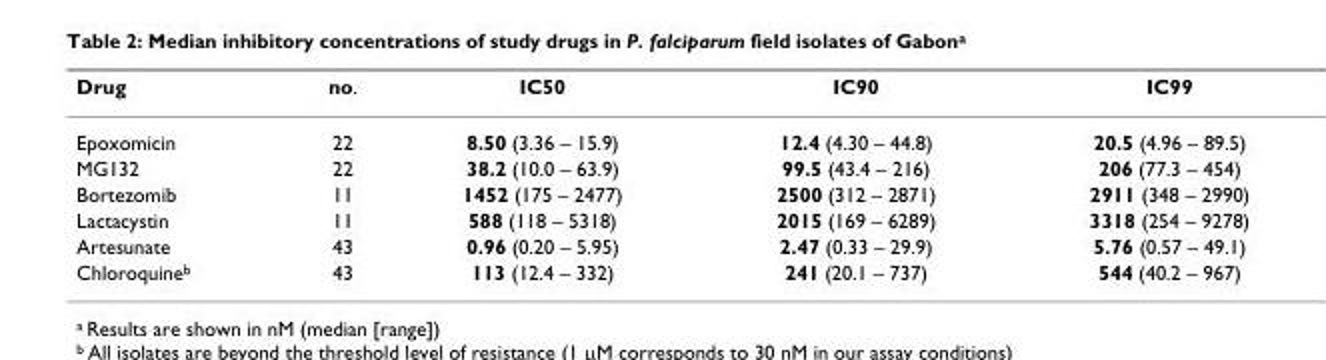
<table><thead><tr><td>Drug</td><td>no.</td><td>IC50</td><td>IC90</td><td>IC99</td></tr></thead><tbody><tr><td>Epoxomicin</td><td>22</td><td>8.50 (3.36 – 15.9)</td><td>12.4 (4.30 – 44.8)</td><td>20.5 (4.96 – 89.5)</td></tr><tr><td>MG132</td><td>22</td><td>38.2 (10.0 – 63.9)</td><td>99.5 (43.4 – 216)</td><td>206 (77.3 – 454)</td></tr><tr><td>Bortezomib</td><td>11</td><td>1452 (175 – 2477)</td><td>2500 (312 – 2871)</td><td>2911 (348 – 2990)</td></tr><tr><td>Lactacystin</td><td>11</td><td>588 (118 – 5318)</td><td>2015 (169 – 6289)</td><td>3318 (254 – 9278)</td></tr><tr><td>Artesunate</td><td>43</td><td>0.96 (0.20 – 5.95)</td><td>2.47 (0.33 – 29.9)</td><td>5.76 (0.57 – 49.1)</td></tr><tr><td>Chloroquine<sup>b</sup></td><td>43</td><td>113 (12.4 – 332)</td><td>241 (20.1 – 737)</td><td>544 (40.2 – 967)</td></tr></tbody></table>